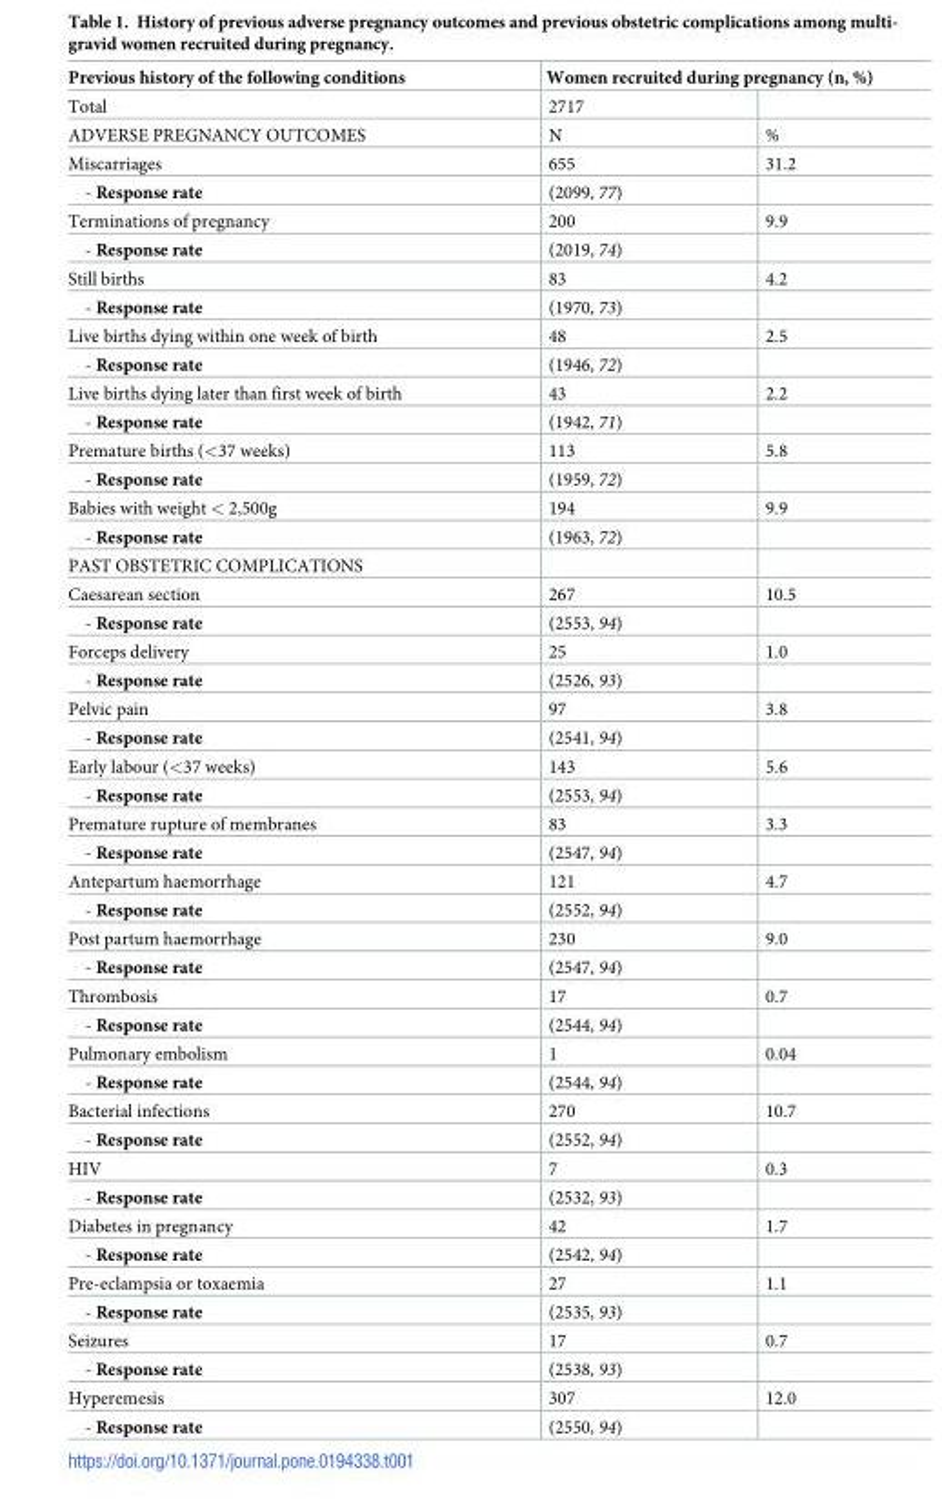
<table><thead><tr><td rowspan="2">Previous history of the following conditions Total</td><td colspan="2">Women recruited during pregnancy (n, %)</td></tr><tr><td>2717</td><td></td></tr></thead><tbody><tr><td>ADVERSE PREGNANCY OUTCOMES</td><td>N</td><td>%</td></tr><tr><td>Miscarriages</td><td>655</td><td>31.2</td></tr><tr><td>- Response rate</td><td>(2099, 77)</td><td></td></tr><tr><td>Terminations of pregnancy</td><td>200</td><td>9.9</td></tr><tr><td>- Response rate</td><td>(2019, 74)</td><td></td></tr><tr><td>Still births</td><td>83</td><td>4.2</td></tr><tr><td>- Response rate</td><td>(1970, 73)</td><td></td></tr><tr><td>Live births dying within one week of birth</td><td>48</td><td>2.5</td></tr><tr><td>- Response rate</td><td>(1946, 72)</td><td></td></tr><tr><td>Live births dying later than first week of birth</td><td>43</td><td>2.2</td></tr><tr><td>- Response rate</td><td>(1942, 71)</td><td></td></tr><tr><td>Premature births (&lt;37 weeks)</td><td>113</td><td>5.8</td></tr><tr><td>- Response rate</td><td>(1959, 72)</td><td></td></tr><tr><td>Babies with weight &lt; 2,500g</td><td>194</td><td>9.9</td></tr><tr><td>- Response rate</td><td>(1963, 72)</td><td></td></tr><tr><td colspan="3">PAST OBSTETRIC COMPLICATIONS</td></tr><tr><td>Caesarean section</td><td>267</td><td>10.5</td></tr><tr><td>- Response rate</td><td>(2553, 94)</td><td></td></tr><tr><td>Forceps delivery</td><td>25</td><td>1.0</td></tr><tr><td>- Response rate</td><td>(2526, 93)</td><td></td></tr><tr><td>Pelvic pain</td><td>97</td><td>3.8</td></tr><tr><td>- Response rate</td><td>(2541, 94)</td><td></td></tr><tr><td>Early labour (&lt;37 weeks)</td><td>143</td><td>5.6</td></tr><tr><td>- Response rate</td><td>(2553, 94)</td><td></td></tr><tr><td>Premature rupture of membranes</td><td>83</td><td>3.3</td></tr><tr><td>- Response rate</td><td>(2547, 94)</td><td></td></tr><tr><td>Antepartum haemorrhage</td><td>121</td><td>4.7</td></tr><tr><td>- Response rate</td><td>(2552, 94)</td><td></td></tr><tr><td>Post partum haemorrhage</td><td>230</td><td>9.0</td></tr><tr><td>- Response rate</td><td>(2547, 94)</td><td></td></tr><tr><td>Thrombosis</td><td>17</td><td>0.7</td></tr><tr><td>- Response rate</td><td>(2544, 94)</td><td></td></tr><tr><td>Pulmonary embolism</td><td>1</td><td>0.04</td></tr><tr><td>- Response rate</td><td>(2544, 94)</td><td></td></tr><tr><td>Bacterial infections</td><td>270</td><td>10.7</td></tr><tr><td>- Response rate</td><td>(2552, 94)</td><td></td></tr><tr><td>HIV</td><td>7</td><td>0.3</td></tr><tr><td>- Response rate</td><td>(2532, 93)</td><td></td></tr><tr><td>Diabetes in pregnancy</td><td>42</td><td>1.7</td></tr><tr><td>- Response rate</td><td>(2542, 94)</td><td></td></tr><tr><td>Pre-eclampsia or toxaemia</td><td>27</td><td>1.1</td></tr><tr><td>- Response rate</td><td>(2535, 93)</td><td></td></tr><tr><td>Seizures</td><td>17</td><td>0.7</td></tr><tr><td>- Response rate</td><td>(2538, 93)</td><td></td></tr><tr><td>Hyperemesis</td><td>307</td><td>12.0</td></tr><tr><td>- Response rate</td><td>(2550, 94)</td><td></td></tr></tbody></table>